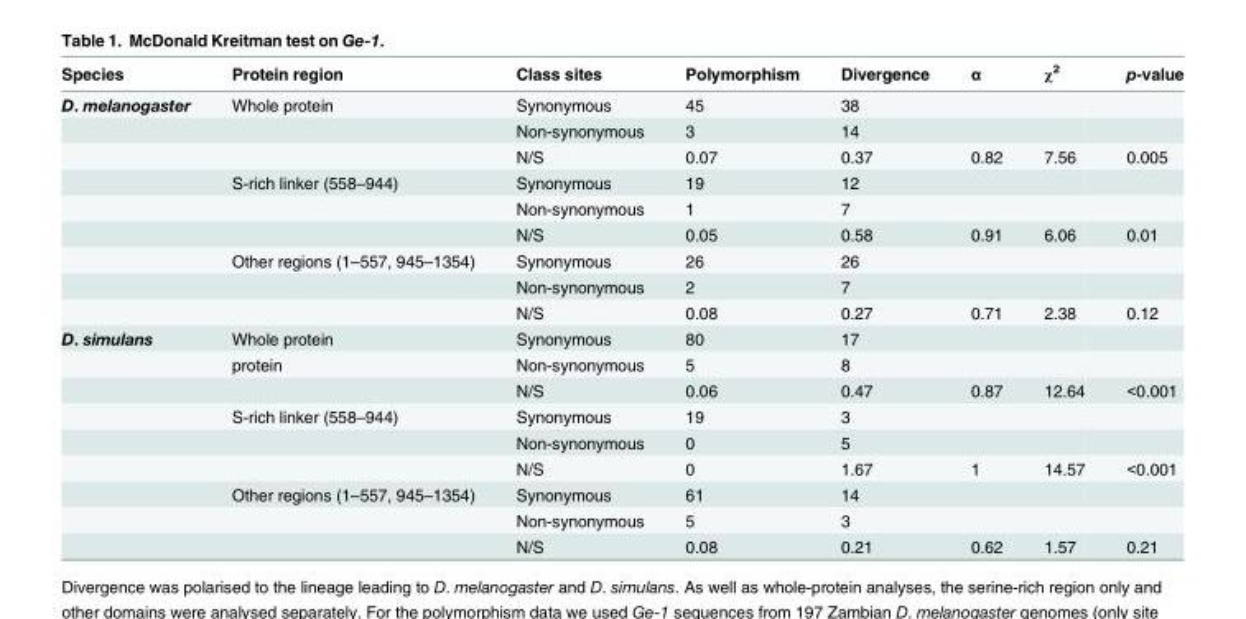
<table><thead><tr><td>Species</td><td>Protein region</td><td>Class sites</td><td>Polymorphism</td><td>Divergence</td><td>α</td><td>χ<sup>2</sup></td><td>p-value</td></tr></thead><tbody><tr><td rowspan="9">D. melanogaster</td><td>Whole protein</td><td>Synonymous</td><td>45</td><td>38</td><td></td><td></td><td></td></tr><tr><td></td><td>Non-synonymous</td><td>3</td><td>14</td><td></td><td></td><td></td></tr><tr><td></td><td>N/S</td><td>0.07</td><td>0.37</td><td>0.82</td><td>7.56</td><td>0.005</td></tr><tr><td>S-rich linker (558–944)</td><td>Synonymous</td><td>19</td><td>12</td><td></td><td></td><td></td></tr><tr><td></td><td>Non-synonymous</td><td>1</td><td>7</td><td></td><td></td><td></td></tr><tr><td></td><td>N/S</td><td>0.05</td><td>0.58</td><td>0.91</td><td>6.06</td><td>0.01</td></tr><tr><td>Other regions (1–557, 945–1354)</td><td>Synonymous</td><td>26</td><td>26</td><td></td><td></td><td></td></tr><tr><td></td><td>Non-synonymous</td><td>2</td><td>7</td><td></td><td></td><td></td></tr><tr><td></td><td>N/S</td><td>0.08</td><td>0.27</td><td>0.71</td><td>2.38</td><td>0.12</td></tr><tr><td rowspan="9">D. simulans</td><td>Whole protein</td><td>Synonymous</td><td>80</td><td>17</td><td></td><td></td><td></td></tr><tr><td>protein</td><td>Non-synonymous</td><td>5</td><td>8</td><td></td><td></td><td></td></tr><tr><td></td><td>N/S</td><td>0.06</td><td>0.47</td><td>0.87</td><td>12.64</td><td>&lt;0.001</td></tr><tr><td>S-rich linker (558–944)</td><td>Synonymous</td><td>19</td><td>3</td><td></td><td></td><td></td></tr><tr><td></td><td>Non-synonymous</td><td>0</td><td>5</td><td></td><td></td><td></td></tr><tr><td></td><td>N/S</td><td>0</td><td>1.67</td><td>1</td><td>14.57</td><td>&lt;0.001</td></tr><tr><td>Other regions (1–557, 945–1354)</td><td>Synonymous</td><td>61</td><td>14</td><td></td><td></td><td></td></tr><tr><td></td><td>Non-synonymous</td><td>5</td><td>3</td><td></td><td></td><td></td></tr><tr><td></td><td>N/S</td><td>0.08</td><td>0.21</td><td>0.62</td><td>1.57</td><td>0.21</td></tr></tbody></table>